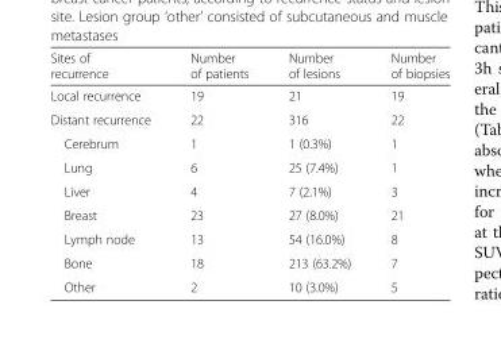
<table><thead><tr><td>Sites of recurrence</td><td>Number of patients</td><td>Number of lesions</td><td>Number of biopsies</td></tr></thead><tbody><tr><td>Local recurrence</td><td>19</td><td>21</td><td>19</td></tr><tr><td>Distant recurrence</td><td>22</td><td>316</td><td>22</td></tr><tr><td>Cerebrum</td><td>1</td><td>1 (0.3%)</td><td>1</td></tr><tr><td>Lung</td><td>6</td><td>25 (7.4%)</td><td>1</td></tr><tr><td>Liver</td><td>4</td><td>7 (2.1%)</td><td>3</td></tr><tr><td>Breast</td><td>23</td><td>27 (8.0%)</td><td>21</td></tr><tr><td>Lymph node</td><td>13</td><td>54 (16.0%)</td><td>8</td></tr><tr><td>Bone</td><td>18</td><td>213 (63.2%)</td><td>7</td></tr><tr><td>Other</td><td>2</td><td>10 (3.0%)</td><td>5</td></tr></tbody></table>